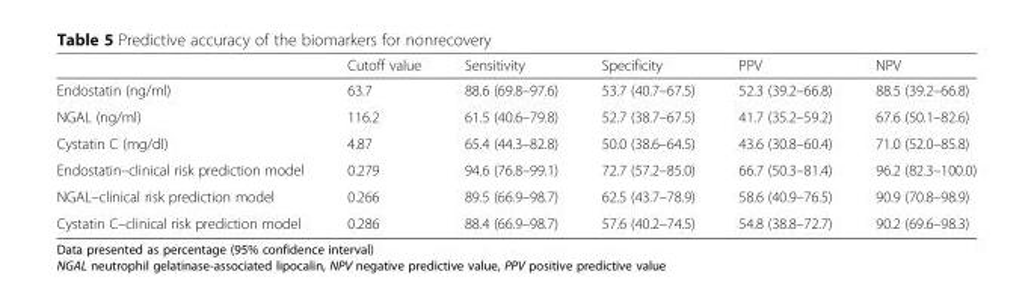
<table><thead><tr><td></td><td>Cutoff value</td><td>Sensitivity</td><td>Specificity</td><td>PPV</td><td>NPV</td></tr></thead><tbody><tr><td>Endostatin (ng/ml)</td><td>63.7</td><td>88.6 (69.8–97.6)</td><td>53.7 (40.7–67.5)</td><td>52.3 (39.2–66.8)</td><td>88.5 (39.2–66.8)</td></tr><tr><td>NGAL (ng/ml)</td><td>116.2</td><td>61.5 (40.6–79.8)</td><td>52.7 (38.7–67.5)</td><td>41.7 (35.2–59.2)</td><td>67.6 (50.1–82.6)</td></tr><tr><td>Cystatin C (mg/dl)</td><td>4.87</td><td>65.4 (44.3–82.8)</td><td>50.0 (38.6–64.5)</td><td>43.6 (30.8–60.4)</td><td>71.0 (52.0–85.8)</td></tr><tr><td>Endostatin–clinical risk prediction model</td><td>0.279</td><td>94.6 (76.8–99.1)</td><td>72.7 (57.2–85.0)</td><td>66.7 (50.3–81.4)</td><td>96.2 (82.3–100.0)</td></tr><tr><td>NGAL–clinical risk prediction model</td><td>0.266</td><td>89.5 (66.9–98.7)</td><td>62.5 (43.7–78.9)</td><td>58.6 (40.9–76.5)</td><td>90.9 (70.8–98.9)</td></tr><tr><td>Cystatin C–clinical risk prediction model</td><td>0.286</td><td>88.4 (66.9–98.7)</td><td>57.6 (40.2–74.5)</td><td>54.8 (38.8–72.7)</td><td>90.2 (69.6–98.3)</td></tr></tbody></table>